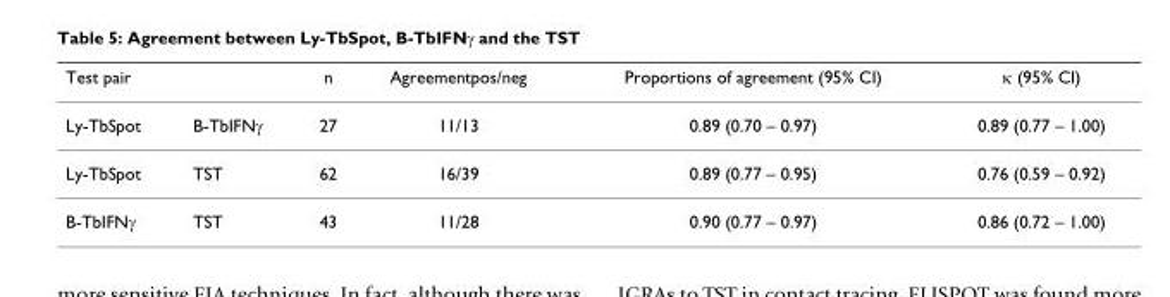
<table><thead><tr><td>Test pair</td><td></td><td>n</td><td>Agreementpos/neg</td><td>Proportions of agreement (95% CI)</td><td>κ (95% CI)</td></tr></thead><tbody><tr><td>Ly-TbSpot</td><td>B-TbIFNγ</td><td>27</td><td>11/13</td><td>0.89 (0.70 – 0.97)</td><td>0.89 (0.77 – 1.00)</td></tr><tr><td>Ly-TbSpot</td><td>TST</td><td>62</td><td>16/39</td><td>0.89 (0.77 – 0.95)</td><td>0.76 (0.59 – 0.92)</td></tr><tr><td>B-TbIFNγ</td><td>TST</td><td>43</td><td>11/28</td><td>0.90 (0.77 – 0.97)</td><td>0.86 (0.72 – 1.00)</td></tr></tbody></table>